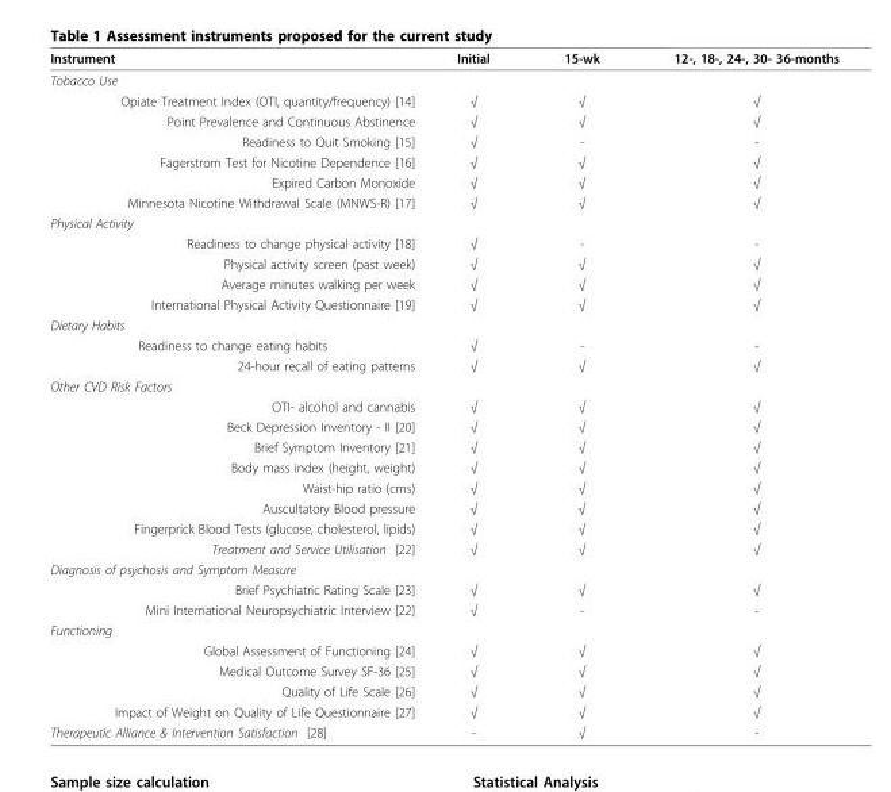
<table><thead><tr><td>Instrument</td><td>Initial</td><td>15-wk</td><td>12-, 18-, 24-, 30- 36-months</td></tr></thead><tbody><tr><td colspan="4">Tobacco Use</td></tr><tr><td>Opiate Treatment Index (OTI, quantity/frequency) [14]</td><td>√</td><td>√</td><td>√</td></tr><tr><td>Point Prevalence and Continuous Abstinence</td><td>√</td><td>√</td><td>√</td></tr><tr><td>Readiness to Quit Smoking [15]</td><td>√</td><td>-</td><td>-</td></tr><tr><td>Fagerstrom Test for Nicotine Dependence [16]</td><td>√</td><td>√</td><td>√</td></tr><tr><td>Expired Carbon Monoxide</td><td>√</td><td>√</td><td>√</td></tr><tr><td>Minnesota Nicotine Withdrawal Scale (MNWS-R) [17]</td><td>√</td><td>√</td><td>√</td></tr><tr><td colspan="4">Physical Activity</td></tr><tr><td>Readiness to change physical activity [18]</td><td>√</td><td>-</td><td>-</td></tr><tr><td>Physical activity screen (past week)</td><td>√</td><td>√</td><td>√</td></tr><tr><td>Average minutes walking per week</td><td>√</td><td>√</td><td>√</td></tr><tr><td>International Physical Activity Questionnaire [19]</td><td>√</td><td>√</td><td>√</td></tr><tr><td colspan="4">Dietary Habits</td></tr><tr><td>Readiness to change eating habits</td><td>√</td><td>-</td><td>-</td></tr><tr><td>24-hour recall of eating patterns</td><td>√</td><td>√</td><td>√</td></tr><tr><td colspan="4">Other CVD Risk Factors</td></tr><tr><td>OTI- alcohol and cannabis</td><td>√</td><td>√</td><td>√</td></tr><tr><td>Beck Depression Inventory - II [20]</td><td>√</td><td>√</td><td>√</td></tr><tr><td>Brief Symptom Inventory [21]</td><td>√</td><td>√</td><td>√</td></tr><tr><td>Body mass index (height, weight)</td><td>√</td><td>√</td><td>√</td></tr><tr><td>Waist-hip ratio (cms)</td><td>√</td><td>√</td><td>√</td></tr><tr><td>Auscultatory Blood pressure</td><td>√</td><td>√</td><td>√</td></tr><tr><td>Fingerprick Blood Tests (glucose, cholesterol, lipids)</td><td>√</td><td>√</td><td>√</td></tr><tr><td>Treatment and Service Utilisation [22]</td><td>√</td><td>√</td><td>√</td></tr><tr><td colspan="4">Diagnosis of psychosis and Symptom Measure</td></tr><tr><td>Brief Psychiatric Rating Scale [23]</td><td>√</td><td>√</td><td>√</td></tr><tr><td>Mini International Neuropsychiatric Interview [22]</td><td>√</td><td>-</td><td>-</td></tr><tr><td colspan="4">Functioning</td></tr><tr><td>Global Assessment of Functioning [24]</td><td>√</td><td>√</td><td>√</td></tr><tr><td>Medical Outcome Survey SF-36 [25]</td><td>√</td><td>√</td><td>√</td></tr><tr><td>Quality of Life Scale [26]</td><td>√</td><td>√</td><td>√</td></tr><tr><td>Impact of Weight on Quality of Life Questionnaire [27]</td><td>√</td><td>√</td><td>√</td></tr><tr><td>Therapeutic Alliance &amp; Intervention Satisfaction [28]</td><td>-</td><td>√</td><td>-</td></tr></tbody></table>